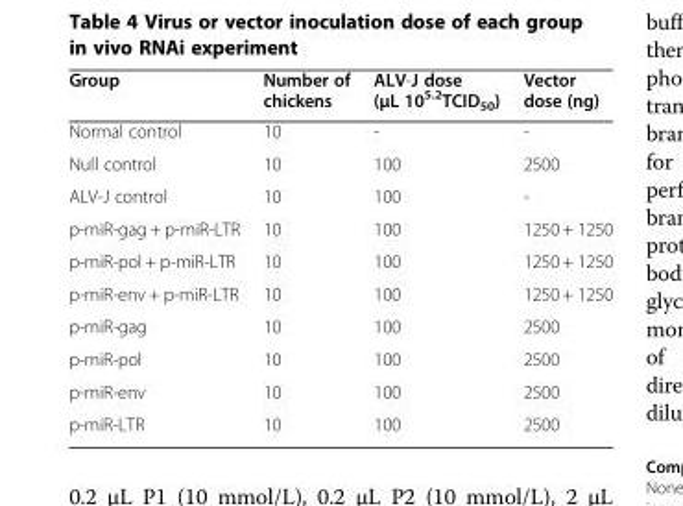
<table><thead><tr><td>Group</td><td>Number of chickens</td><td>ALV-J dose (μL 10<sup>5.2</sup>TCID<sub>50</sub>)</td><td>Vector dose (ng)</td></tr></thead><tbody><tr><td>Normal control</td><td>10</td><td>-</td><td>-</td></tr><tr><td>Null control</td><td>10</td><td>100</td><td>2500</td></tr><tr><td>ALV-J control</td><td>10</td><td>100</td><td>-</td></tr><tr><td>p-miR-gag + p-miR-LTR</td><td>10</td><td>100</td><td>1250 + 1250</td></tr><tr><td>p-miR-pol + p-miR-LTR</td><td>10</td><td>100</td><td>1250 + 1250</td></tr><tr><td>p-miR-env + p-miR-LTR</td><td>10</td><td>100</td><td>1250 + 1250</td></tr><tr><td>p-miR-gag</td><td>10</td><td>100</td><td>2500</td></tr><tr><td>p-miR-pol</td><td>10</td><td>100</td><td>2500</td></tr><tr><td>p-miR-env</td><td>10</td><td>100</td><td>2500</td></tr><tr><td>p-miR-LTR</td><td>10</td><td>100</td><td>2500</td></tr></tbody></table>